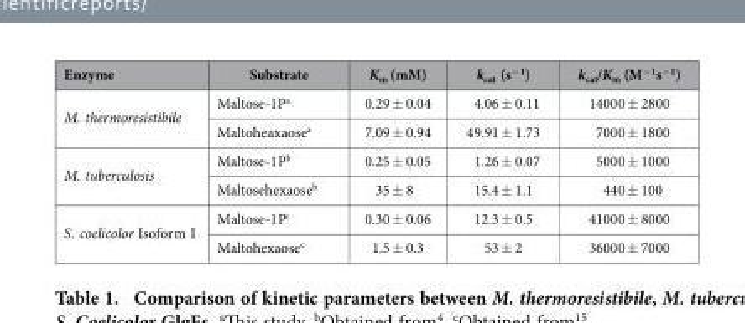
<table><thead><tr><td>Enzyme</td><td>Substrate</td><td>K<sub>m</sub> (mM)</td><td>k<sub>cat</sub> (s<sup>−1</sup>)</td><td>k<sub>cat</sub>/K<sub>m</sub> (M<sup>−1</sup>s<sup>−1</sup>)</td></tr></thead><tbody><tr><td rowspan="2">M. thermoresistibile</td><td>Maltose-1P<sup>a</sup></td><td>0.29 ± 0.04</td><td>4.06 ± 0.11</td><td>14000 ± 2800</td></tr><tr><td>Maltoheaxaose<sup>a</sup></td><td>7.09 ± 0.94</td><td>49.91 ± 1.73</td><td>7000 ± 1800</td></tr><tr><td rowspan="2">M. tuberculosis</td><td>Maltose-1P<sup>b</sup></td><td>0.25 ± 0.05</td><td>1.26 ± 0.07</td><td>5000 ± 1000</td></tr><tr><td>Maltosehexaose<sup>b</sup></td><td>35 ± 8</td><td>15.4 ± 1.1</td><td>440 ± 100</td></tr><tr><td rowspan="2">S. coelicolor Isoform I</td><td>Maltose-1P<sup>c</sup></td><td>0.30 ± 0.06</td><td>12.3 ± 0.5</td><td>41000 ± 8000</td></tr><tr><td>Maltohexaose<sup>c</sup></td><td>1.5 ± 0.3</td><td>53 ± 2</td><td>36000 ± 7000</td></tr></tbody></table>